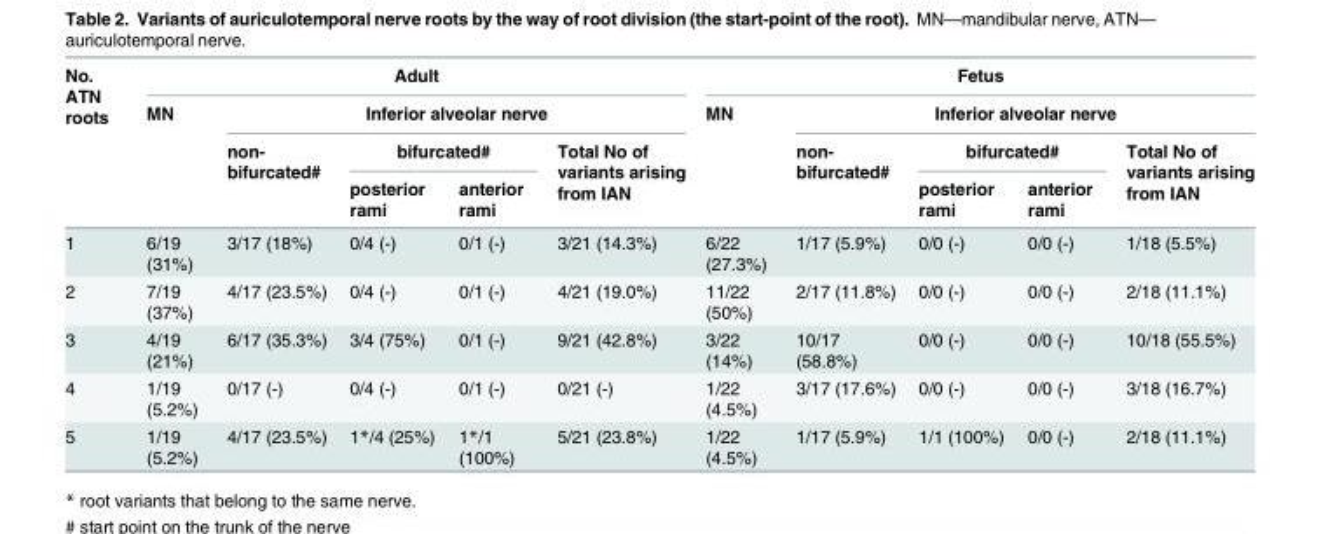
<table><thead><tr><td rowspan="4">No. ATN roots</td><td colspan="5">Adult</td><td colspan="5">Fetus</td></tr><tr><td rowspan="3">MN</td><td colspan="4">Inferior alveolar nerve</td><td rowspan="3">MN</td><td colspan="4">Inferior alveolar nerve</td></tr><tr><td rowspan="2">non- bifurcated#</td><td colspan="2">bifurcated#</td><td rowspan="2">Total No of variants arising from IAN</td><td rowspan="2">non- bifurcated#</td><td colspan="2">bifurcated#</td><td rowspan="2">Total No of variants arising from IAN</td></tr><tr><td>posterior rami</td><td>anterior rami</td><td>posterior rami</td><td>anterior rami</td></tr></thead><tbody><tr><td>1</td><td>6/19 (31%)</td><td>3/17 (18%)</td><td>0/4 (-)</td><td>0/1 (-)</td><td>3/21 (14.3%)</td><td>6/22 (27.3%)</td><td>1/17 (5.9%)</td><td>0/0 (-)</td><td>0/0 (-)</td><td>1/18 (5.5%)</td></tr><tr><td>2</td><td>7/19 (37%)</td><td>4/17 (23.5%)</td><td>0/4 (-)</td><td>0/1 (-)</td><td>4/21 (19.0%)</td><td>11/22 (50%)</td><td>2/17 (11.8%)</td><td>0/0 (-)</td><td>0/0 (-)</td><td>2/18 (11.1%)</td></tr><tr><td>3</td><td>4/19 (21%)</td><td>6/17 (35.3%)</td><td>3/4 (75%)</td><td>0/1 (-)</td><td>9/21 (42.8%)</td><td>3/22 (14%)</td><td>10/17 (58.8%)</td><td>0/0 (-)</td><td>0/0 (-)</td><td>10/18 (55.5%)</td></tr><tr><td>4</td><td>1/19 (5.2%)</td><td>0/17 (-)</td><td>0/4 (-)</td><td>0/1 (-)</td><td>0/21 (-)</td><td>1/22 (4.5%)</td><td>3/17 (17.6%)</td><td>0/0 (-)</td><td>0/0 (-)</td><td>3/18 (16.7%)</td></tr><tr><td>5</td><td>1/19 (5.2%)</td><td>4/17 (23.5%)</td><td>1*/4 (25%)</td><td>1*/1 (100%)</td><td>5/21 (23.8%)</td><td>1/22 (4.5%)</td><td>1/17 (5.9%)</td><td>1/1 (100%)</td><td>0/0 (-)</td><td>2/18 (11.1%)</td></tr></tbody></table>